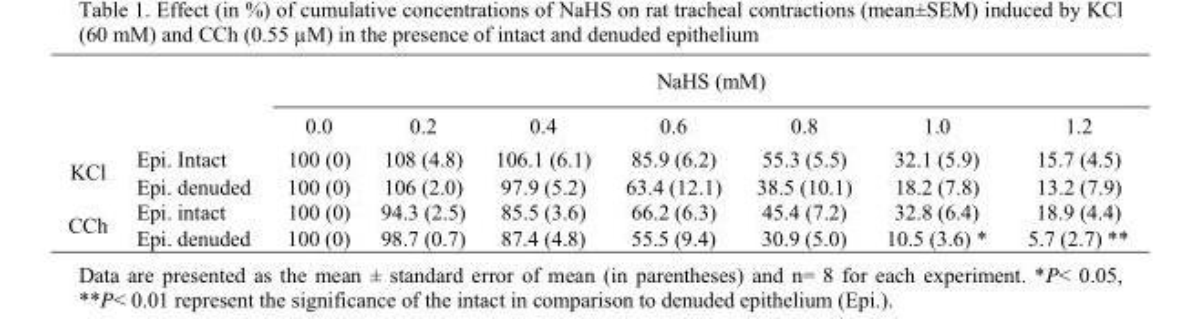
<table><thead><tr><td rowspan="2"></td><td rowspan="2"></td><td colspan="7">NaHS (mM)</td></tr><tr><td>0.0</td><td>0.2</td><td>0.4</td><td>0.6</td><td>0.8</td><td>1.0</td><td>1.2</td></tr></thead><tbody><tr><td rowspan="2">KCl</td><td>Epi. Intact</td><td>100 (0)</td><td>108 (4.8)</td><td>106.1 (6.1)</td><td>85.9 (6.2)</td><td>55.3 (5.5)</td><td>32.1 (5.9)</td><td>15.7 (4.5)</td></tr><tr><td>Epi. denuded</td><td>100 (0)</td><td>106 (2.0)</td><td>97.9 (5.2)</td><td>63.4 (12.1)</td><td>38.5 (10.1)</td><td>18.2 (7.8)</td><td>13.2 (7.9)</td></tr><tr><td rowspan="2">CCh</td><td>Epi. intact</td><td>100 (0)</td><td>94.3 (2.5)</td><td>85.5 (3.6)</td><td>66.2 (6.3)</td><td>45.4 (7.2)</td><td>32.8 (6.4)</td><td>18.9 (4.4)</td></tr><tr><td>Epi. denuded</td><td>100 (0)</td><td>98.7 (0.7)</td><td>87.4 (4.8)</td><td>55.5 (9.4)</td><td>30.9 (5.0)</td><td>10.5 (3.6) *</td><td>5.7 (2.7) **</td></tr></tbody></table>